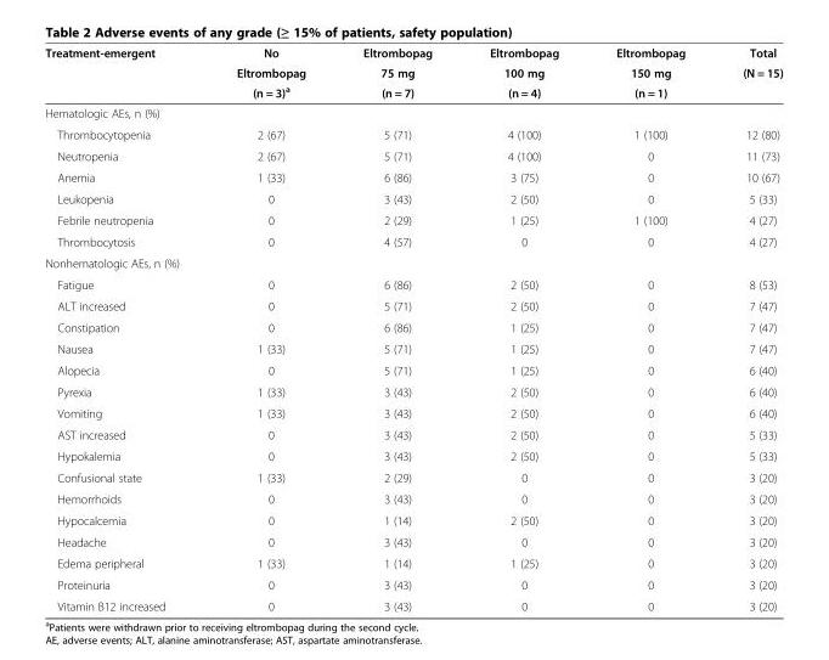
<table><thead><tr><td rowspan="3">Treatment-emergent</td><td rowspan="3">No Eltrombopag (n = 3)<sup>a</sup></td><td rowspan="3">Eltrombopag 75 mg (n = 7)</td><td rowspan="3">Eltrombopag 100 mg (n = 4)</td><td rowspan="3">Eltrombopag 150 mg (n = 1)</td><td rowspan="3">Total (N = 15)</td></tr><tr></tr><tr></tr></thead><tbody><tr><td colspan="6">Hematologic AEs, n (%)</td></tr><tr><td>Thrombocytopenia</td><td>2 (67)</td><td>5 (71)</td><td>4 (100)</td><td>1 (100)</td><td>12 (80)</td></tr><tr><td>Neutropenia</td><td>2 (67)</td><td>5 (71)</td><td>4 (100)</td><td>0</td><td>11 (73)</td></tr><tr><td>Anemia</td><td>1 (33)</td><td>6 (86)</td><td>3 (75)</td><td>0</td><td>10 (67)</td></tr><tr><td>Leukopenia</td><td>0</td><td>3 (43)</td><td>2 (50)</td><td>0</td><td>5 (33)</td></tr><tr><td>Febrile neutropenia</td><td>0</td><td>2 (29)</td><td>1 (25)</td><td>1 (100)</td><td>4 (27)</td></tr><tr><td>Thrombocytosis</td><td>0</td><td>4 (57)</td><td>0</td><td>0</td><td>4 (27)</td></tr><tr><td colspan="6">Nonhematologic AEs, n (%)</td></tr><tr><td>Fatigue</td><td>0</td><td>6 (86)</td><td>2 (50)</td><td>0</td><td>8 (53)</td></tr><tr><td>ALT increased</td><td>0</td><td>5 (71)</td><td>2 (50)</td><td>0</td><td>7 (47)</td></tr><tr><td>Constipation</td><td>0</td><td>6 (86)</td><td>1 (25)</td><td>0</td><td>7 (47)</td></tr><tr><td>Nausea</td><td>1 (33)</td><td>5 (71)</td><td>1 (25)</td><td>0</td><td>7 (47)</td></tr><tr><td>Alopecia</td><td>0</td><td>5 (71)</td><td>1 (25)</td><td>0</td><td>6 (40)</td></tr><tr><td>Pyrexia</td><td>1 (33)</td><td>3 (43)</td><td>2 (50)</td><td>0</td><td>6 (40)</td></tr><tr><td>Vomiting</td><td>1 (33)</td><td>3 (43)</td><td>2 (50)</td><td>0</td><td>6 (40)</td></tr><tr><td>AST increased</td><td>0</td><td>3 (43)</td><td>2 (50)</td><td>0</td><td>5 (33)</td></tr><tr><td>Hypokalemia</td><td>0</td><td>3 (43)</td><td>2 (50)</td><td>0</td><td>5 (33)</td></tr><tr><td>Confusional state</td><td>1 (33)</td><td>2 (29)</td><td>0</td><td>0</td><td>3 (20)</td></tr><tr><td>Hemorrhoids</td><td>0</td><td>3 (43)</td><td>0</td><td>0</td><td>3 (20)</td></tr><tr><td>Hypocalcemia</td><td>0</td><td>1 (14)</td><td>2 (50)</td><td>0</td><td>3 (20)</td></tr><tr><td>Headache</td><td>0</td><td>3 (43)</td><td>0</td><td>0</td><td>3 (20)</td></tr><tr><td>Edema peripheral</td><td>1 (33)</td><td>1 (14)</td><td>1 (25)</td><td>0</td><td>3 (20)</td></tr><tr><td>Proteinuria</td><td>0</td><td>3 (43)</td><td>0</td><td>0</td><td>3 (20)</td></tr><tr><td>Vitamin B12 increased</td><td>0</td><td>3 (43)</td><td>0</td><td>0</td><td>3 (20)</td></tr></tbody></table>